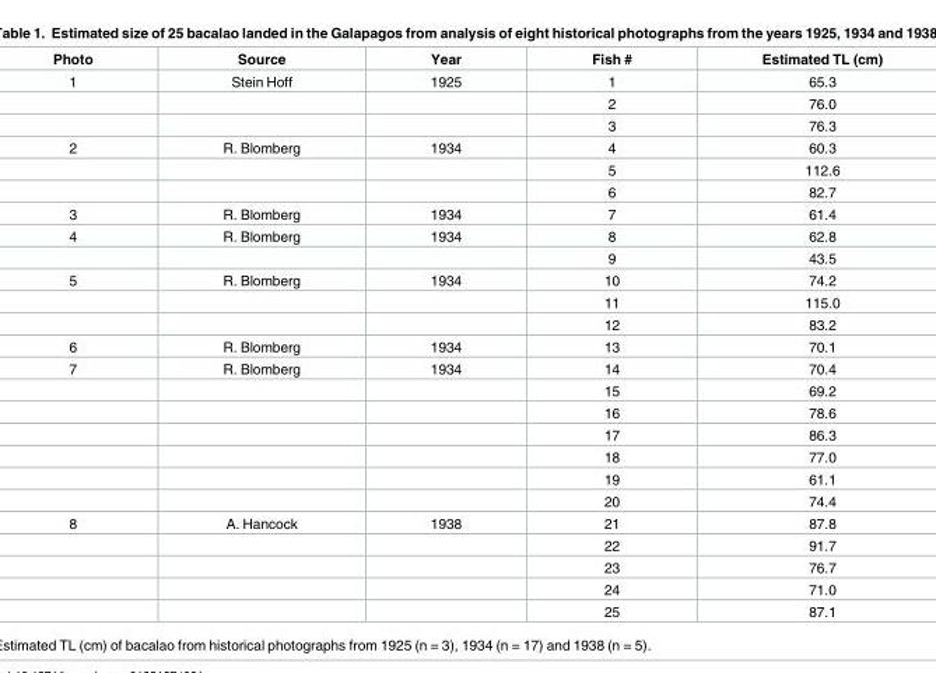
<table><thead><tr><td>Photo</td><td>Source</td><td>Year</td><td>Fish #</td><td>Estimated TL (cm)</td></tr></thead><tbody><tr><td rowspan="3">1</td><td>Stein Hoff</td><td>1925</td><td>1</td><td>65.3</td></tr><tr><td></td><td></td><td>2</td><td>76.0</td></tr><tr><td></td><td></td><td>3</td><td>76.3</td></tr><tr><td rowspan="3">2</td><td>R. Blomberg</td><td>1934</td><td>4</td><td>60.3</td></tr><tr><td></td><td></td><td>5</td><td>112.6</td></tr><tr><td></td><td></td><td>6</td><td>82.7</td></tr><tr><td>3</td><td>R. Blomberg</td><td>1934</td><td>7</td><td>61.4</td></tr><tr><td rowspan="2">4</td><td>R. Blomberg</td><td>1934</td><td>8</td><td>62.8</td></tr><tr><td></td><td></td><td>9</td><td>43.5</td></tr><tr><td rowspan="3">5</td><td>R. Blomberg</td><td>1934</td><td>10</td><td>74.2</td></tr><tr><td></td><td></td><td>11</td><td>115.0</td></tr><tr><td></td><td></td><td>12</td><td>83.2</td></tr><tr><td>6</td><td>R. Blomberg</td><td>1934</td><td>13</td><td>70.1</td></tr><tr><td rowspan="7">7</td><td>R. Blomberg</td><td>1934</td><td>14</td><td>70.4</td></tr><tr><td></td><td></td><td>15</td><td>69.2</td></tr><tr><td></td><td></td><td>16</td><td>78.6</td></tr><tr><td></td><td></td><td>17</td><td>86.3</td></tr><tr><td></td><td></td><td>18</td><td>77.0</td></tr><tr><td></td><td></td><td>19</td><td>61.1</td></tr><tr><td></td><td></td><td>20</td><td>74.4</td></tr><tr><td rowspan="5">8</td><td>A. Hancock</td><td>1938</td><td>21</td><td>87.8</td></tr><tr><td></td><td></td><td>22</td><td>91.7</td></tr><tr><td></td><td></td><td>23</td><td>76.7</td></tr><tr><td></td><td></td><td>24</td><td>71.0</td></tr><tr><td></td><td></td><td>25</td><td>87.1</td></tr></tbody></table>